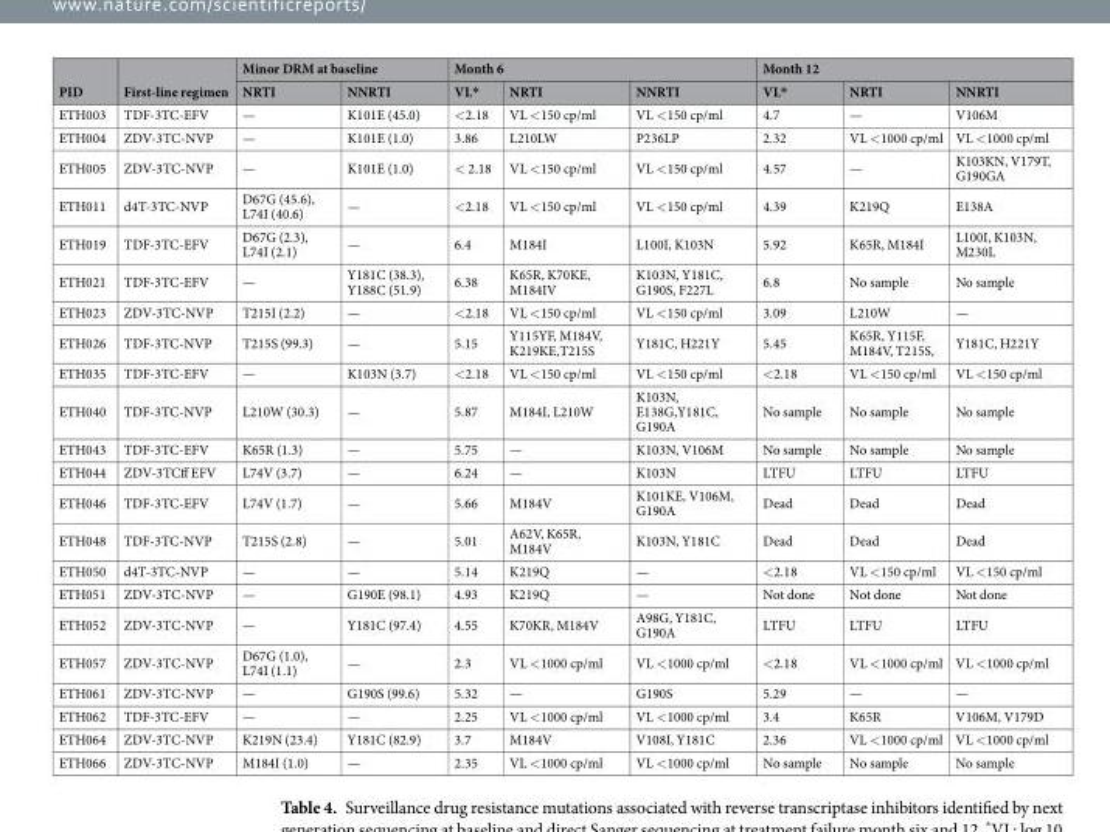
<table><thead><tr><td rowspan="2">PID</td><td rowspan="2">First-line regimen</td><td colspan="2">Minor DRM at baseline</td><td colspan="3">Month 6</td><td colspan="3">Month 12</td></tr><tr><td>NRTI</td><td>NNRTI</td><td>VL*</td><td>NRTI</td><td>NNRTI</td><td>VL*</td><td>NRTI</td><td>NNRTI</td></tr></thead><tbody><tr><td>ETH003</td><td>TDF-3TC-EFV</td><td>—</td><td>K101E (45.0)</td><td>&lt;2.18</td><td>VL &lt;150 cp/ml</td><td>VL &lt;150 cp/ml</td><td>4.7</td><td>—</td><td>V106M</td></tr><tr><td>ETH004</td><td>ZDV-3TC-NVP</td><td>—</td><td>K101E (1.0)</td><td>3.86</td><td>L210LW</td><td>P236LP</td><td>2.32</td><td>VL &lt;1000 cp/ml</td><td>VL &lt;1000 cp/ml</td></tr><tr><td>ETH005</td><td>ZDV-3TC-NVP</td><td>—</td><td>K101E (1.0)</td><td>&lt; 2.18</td><td>VL &lt;150 cp/ml</td><td>VL &lt;150 cp/ml</td><td>4.57</td><td>—</td><td>K103KN, V179T, G190GA</td></tr><tr><td>ETH011</td><td>d4T-3TC-NVP</td><td>D67G (45.6), L74I (40.6)</td><td>—</td><td>&lt;2.18</td><td>VL &lt;150 cp/ml</td><td>VL &lt;150 cp/ml</td><td>4.39</td><td>K219Q</td><td>E138A</td></tr><tr><td>ETH019</td><td>TDF-3TC-EFV</td><td>D67G (2.3), L74I (2.1)</td><td>—</td><td>6.4</td><td>M184I</td><td>L100I, K103N</td><td>5.92</td><td>K65R, M184I</td><td>L100I, K103N, M230L</td></tr><tr><td>ETH021</td><td>TDF-3TC-EFV</td><td>—</td><td>Y181C (38.3), Y188C (51.9)</td><td>6.38</td><td>K65R, K70KE, M184IV</td><td>K103N, Y181C, G190S, F227L</td><td>6.8</td><td>No sample</td><td>No sample</td></tr><tr><td>ETH023</td><td>ZDV-3TC-NVP</td><td>T215I (2.2)</td><td>—</td><td>&lt;2.18</td><td>VL &lt;150 cp/ml</td><td>VL &lt;150 cp/ml</td><td>3.09</td><td>L210W</td><td>—</td></tr><tr><td>ETH026</td><td>TDF-3TC-NVP</td><td>T215S (99.3)</td><td>—</td><td>5.15</td><td>Y115YF, M184V, K219KE,T215S</td><td>Y181C, H221Y</td><td>5.45</td><td>K65R, Y115F, M184V, T215S,</td><td>Y181C, H221Y</td></tr><tr><td>ETH035</td><td>TDF-3TC-EFV</td><td>—</td><td>K103N (3.7)</td><td>&lt;2.18</td><td>VL &lt;150 cp/ml</td><td>VL &lt;150 cp/ml</td><td>&lt;2.18</td><td>VL &lt;150 cp/ml</td><td>VL &lt;150 cp/ml</td></tr><tr><td>ETH040</td><td>TDF-3TC-NVP</td><td>L210W (30.3)</td><td>—</td><td>5.87</td><td>M184I, L210W</td><td>K103N, E138G,Y181C, G190A</td><td>No sample</td><td>No sample</td><td>No sample</td></tr><tr><td>ETH043</td><td>TDF-3TC-EFV</td><td>K65R (1.3)</td><td>—</td><td>5.75</td><td>—</td><td>K103N, V106M</td><td>No sample</td><td>No sample</td><td>No sample</td></tr><tr><td>ETH044</td><td>ZDV-3TCff EFV</td><td>L74V (3.7)</td><td>—</td><td>6.24</td><td>—</td><td>K103N</td><td>LTFU</td><td>LTFU</td><td>LTFU</td></tr><tr><td>ETH046</td><td>TDF-3TC-EFV</td><td>L74V (1.7)</td><td>—</td><td>5.66</td><td>M184V</td><td>K101KE, V106M, G190A</td><td>Dead</td><td>Dead</td><td>Dead</td></tr><tr><td>ETH048</td><td>TDF-3TC-NVP</td><td>T215S (2.8)</td><td>—</td><td>5.01</td><td>A62V, K65R, M184V</td><td>K103N, Y181C</td><td>Dead</td><td>Dead</td><td>Dead</td></tr><tr><td>ETH050</td><td>d4T-3TC-NVP</td><td>—</td><td>—</td><td>5.14</td><td>K219Q</td><td>—</td><td>&lt;2.18</td><td>VL &lt;150 cp/ml</td><td>VL &lt;150 cp/ml</td></tr><tr><td>ETH051</td><td>ZDV-3TC-NVP</td><td>—</td><td>G190E (98.1)</td><td>4.93</td><td>K219Q</td><td>—</td><td>Not done</td><td>Not done</td><td>Not done</td></tr><tr><td>ETH052</td><td>ZDV-3TC-NVP</td><td>—</td><td>Y181C (97.4)</td><td>4.55</td><td>K70KR, M184V</td><td>A98G, Y181C, G190A</td><td>LTFU</td><td>LTFU</td><td>LTFU</td></tr><tr><td>ETH057</td><td>ZDV-3TC-NVP</td><td>D67G (1.0), L74I (1.1)</td><td>—</td><td>2.3</td><td>VL &lt;1000 cp/ml</td><td>VL &lt;1000 cp/ml</td><td>&lt;2.18</td><td>VL &lt;1000 cp/ml</td><td>VL &lt;1000 cp/ml</td></tr><tr><td>ETH061</td><td>ZDV-3TC-NVP</td><td>—</td><td>G190S (99.6)</td><td>5.32</td><td>—</td><td>G190S</td><td>5.29</td><td>—</td><td>—</td></tr><tr><td>ETH062</td><td>TDF-3TC-EFV</td><td>—</td><td>—</td><td>2.25</td><td>VL &lt;1000 cp/ml</td><td>VL &lt;1000 cp/ml</td><td>3.4</td><td>K65R</td><td>V106M, V179D</td></tr><tr><td>ETH064</td><td>ZDV-3TC-NVP</td><td>K219N (23.4)</td><td>Y181C (82.9)</td><td>3.7</td><td>M184V</td><td>V108I, Y181C</td><td>2.36</td><td>VL &lt;1000 cp/ml</td><td>VL &lt;1000 cp/ml</td></tr><tr><td>ETH066</td><td>ZDV-3TC-NVP</td><td>M184I (1.0)</td><td>—</td><td>2.35</td><td>VL &lt;1000 cp/ml</td><td>VL &lt;1000 cp/ml</td><td>No sample</td><td>No sample</td><td>No sample</td></tr></tbody></table>